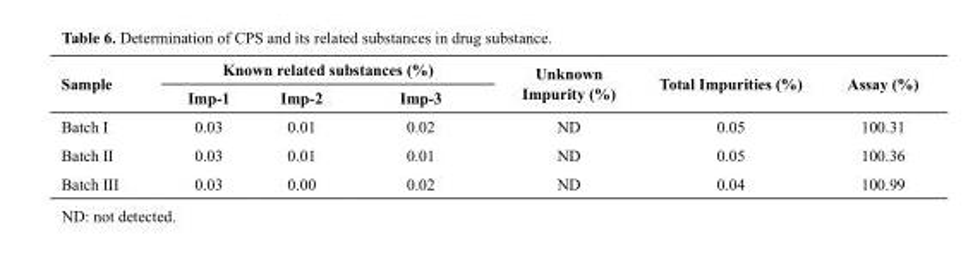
<table><thead><tr><td rowspan="2">Sample</td><td colspan="3">Known related substances (%)</td><td rowspan="2">Unknown Impurity (%)</td><td rowspan="2">Total Impurities (%)</td><td rowspan="2">Assay (%)</td></tr><tr><td>Imp-1</td><td>Imp-2</td><td>Imp-3</td></tr></thead><tbody><tr><td>Batch I</td><td>0.03</td><td>0.01</td><td>0.02</td><td>ND</td><td>0.05</td><td>100.31</td></tr><tr><td>Batch II</td><td>0.03</td><td>0.01</td><td>0.01</td><td>ND</td><td>0.05</td><td>100.36</td></tr><tr><td>Batch III</td><td>0.03</td><td>0.00</td><td>0.02</td><td>ND</td><td>0.04</td><td>100.99</td></tr></tbody></table>